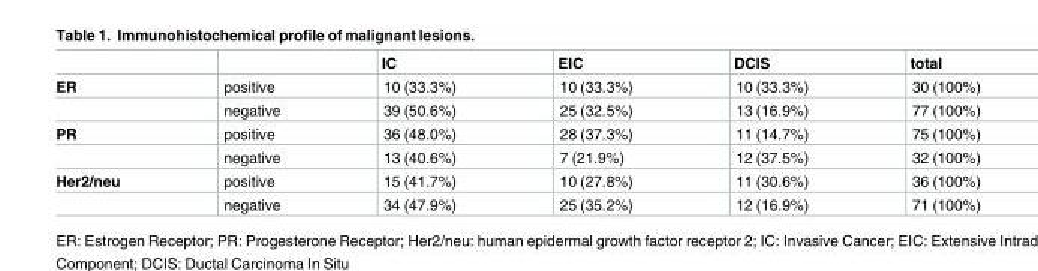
<table><thead><tr><td></td><td></td><td>IC</td><td>EIC</td><td>DCIS</td><td>total</td></tr></thead><tbody><tr><td rowspan="2">ER</td><td>positive</td><td>10 (33.3%)</td><td>10 (33.3%)</td><td>10 (33.3%)</td><td>30 (100%)</td></tr><tr><td>negative</td><td>39 (50.6%)</td><td>25 (32.5%)</td><td>13 (16.9%)</td><td>77 (100%)</td></tr><tr><td rowspan="2">PR</td><td>positive</td><td>36 (48.0%)</td><td>28 (37.3%)</td><td>11 (14.7%)</td><td>75 (100%)</td></tr><tr><td>negative</td><td>13 (40.6%)</td><td>7 (21.9%)</td><td>12 (37.5%)</td><td>32 (100%)</td></tr><tr><td rowspan="2">Her2/neu</td><td>positive</td><td>15 (41.7%)</td><td>10 (27.8%)</td><td>11 (30.6%)</td><td>36 (100%)</td></tr><tr><td>negative</td><td>34 (47.9%)</td><td>25 (35.2%)</td><td>12 (16.9%)</td><td>71 (100%)</td></tr></tbody></table>